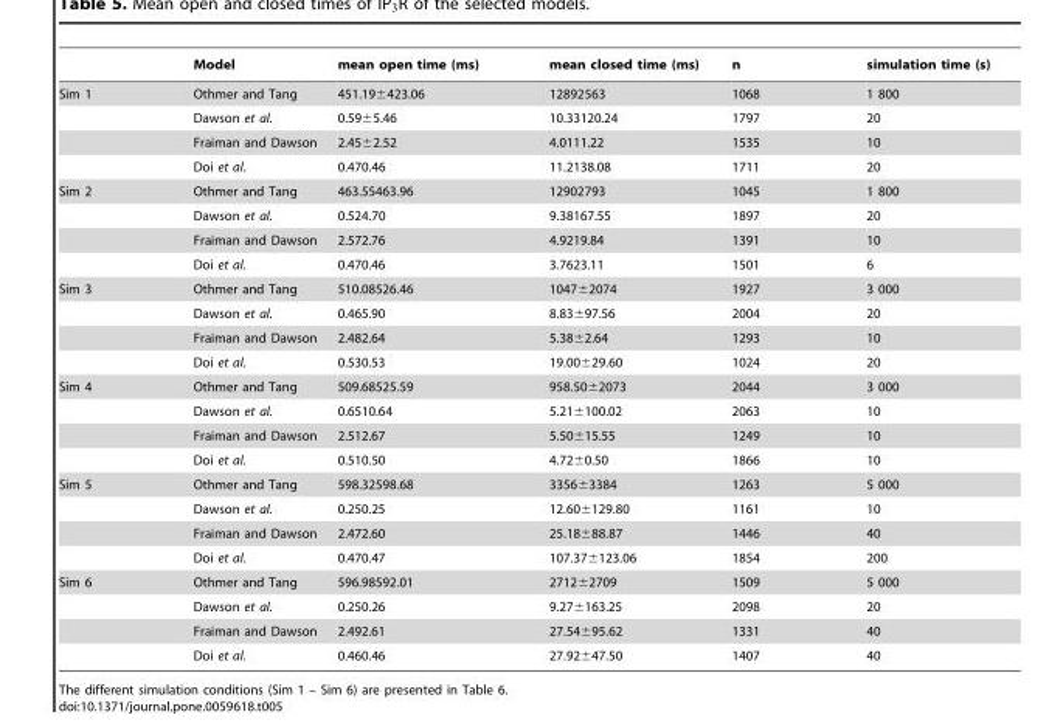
<table><thead><tr><td></td><td>Model</td><td>mean open time (ms)</td><td>mean closed time (ms)</td><td>n</td><td>simulation time (s)</td></tr></thead><tbody><tr><td rowspan="4">Sim 1</td><td>Othmer and Tang</td><td>451.19±423.06</td><td>12892563</td><td>1068</td><td>1 800</td></tr><tr><td>Dawson et al.</td><td>0.59±5.46</td><td>10.33120.24</td><td>1797</td><td>20</td></tr><tr><td>Fraiman and Dawson</td><td>2.45±2.52</td><td>4.0111.22</td><td>1535</td><td>10</td></tr><tr><td>Doi et al.</td><td>0.470.46</td><td>11.2138.08</td><td>1711</td><td>20</td></tr><tr><td rowspan="4">Sim 2</td><td>Othmer and Tang</td><td>463.55463.96</td><td>12902793</td><td>1045</td><td>1 800</td></tr><tr><td>Dawson et al.</td><td>0.524.70</td><td>9.38167.55</td><td>1897</td><td>20</td></tr><tr><td>Fraiman and Dawson</td><td>2.572.76</td><td>4.9219.84</td><td>1391</td><td>10</td></tr><tr><td>Doi et al.</td><td>0.470.46</td><td>3.7623.11</td><td>1501</td><td>6</td></tr><tr><td rowspan="4">Sim 3</td><td>Othmer and Tang</td><td>510.08526.46</td><td>1047±2074</td><td>1927</td><td>3 000</td></tr><tr><td>Dawson et al.</td><td>0.465.90</td><td>8.83±97.56</td><td>2004</td><td>20</td></tr><tr><td>Fraiman and Dawson</td><td>2.482.64</td><td>5.38±2.64</td><td>1293</td><td>10</td></tr><tr><td>Doi et al.</td><td>0.530.53</td><td>19.00±29.60</td><td>1024</td><td>20</td></tr><tr><td rowspan="4">Sim 4</td><td>Othmer and Tang</td><td>509.68525.59</td><td>958.50±2073</td><td>2044</td><td>3 000</td></tr><tr><td>Dawson et al.</td><td>0.6510.64</td><td>5.21±100.02</td><td>2063</td><td>10</td></tr><tr><td>Fraiman and Dawson</td><td>2.512.67</td><td>5.50±15.55</td><td>1249</td><td>10</td></tr><tr><td>Doi et al.</td><td>0.510.50</td><td>4.72±0.50</td><td>1866</td><td>10</td></tr><tr><td rowspan="4">Sim 5</td><td>Othmer and Tang</td><td>598.32598.68</td><td>3356±3384</td><td>1263</td><td>5 000</td></tr><tr><td>Dawson et al.</td><td>0.250.25</td><td>12.60±129.80</td><td>1161</td><td>10</td></tr><tr><td>Fraiman and Dawson</td><td>2.472.60</td><td>25.18±88.87</td><td>1446</td><td>40</td></tr><tr><td>Doi et al.</td><td>0.470.47</td><td>107.37±123.06</td><td>1854</td><td>200</td></tr><tr><td rowspan="4">Sim 6</td><td>Othmer and Tang</td><td>596.98592.01</td><td>2712±2709</td><td>1509</td><td>5 000</td></tr><tr><td>Dawson et al.</td><td>0.250.26</td><td>9.27±163.25</td><td>2098</td><td>20</td></tr><tr><td>Fraiman and Dawson</td><td>2.492.61</td><td>27.54±95.62</td><td>1331</td><td>40</td></tr><tr><td>Doi et al.</td><td>0.460.46</td><td>27.92±47.50</td><td>1407</td><td>40</td></tr></tbody></table>